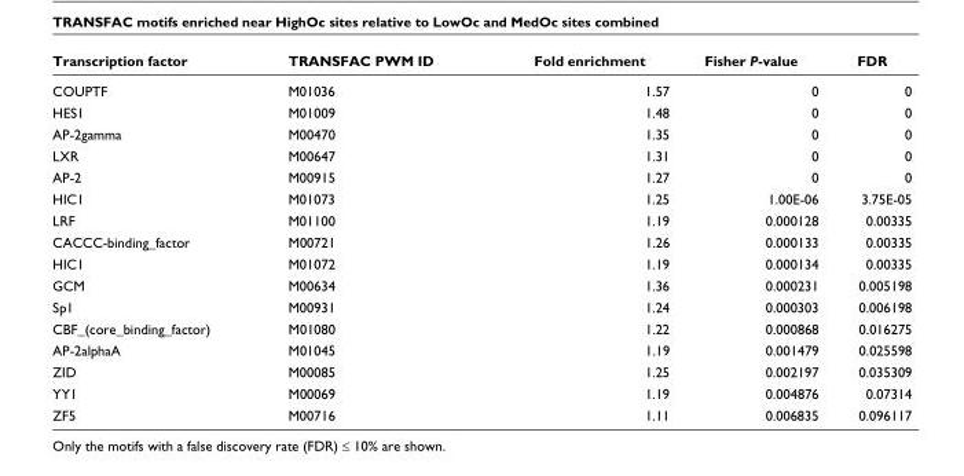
<table><thead><tr><td>Transcription factor</td><td>TRANSFAC PWM ID</td><td>Fold enrichment</td><td>Fisher P-value</td><td>FDR</td></tr></thead><tbody><tr><td>COUPTF</td><td>M01036</td><td>1.57</td><td>0</td><td>0</td></tr><tr><td>HES1</td><td>M01009</td><td>1.48</td><td>0</td><td>0</td></tr><tr><td>AP-2gamma</td><td>M00470</td><td>1.35</td><td>0</td><td>0</td></tr><tr><td>LXR</td><td>M00647</td><td>1.31</td><td>0</td><td>0</td></tr><tr><td>AP-2</td><td>M00915</td><td>1.27</td><td>0</td><td>0</td></tr><tr><td>HIC1</td><td>M01073</td><td>1.25</td><td>1.00E-06</td><td>3.75E-05</td></tr><tr><td>LRF</td><td>M01100</td><td>1.19</td><td>0.000128</td><td>0.00335</td></tr><tr><td>CACCC-binding_factor</td><td>M00721</td><td>1.26</td><td>0.000133</td><td>0.00335</td></tr><tr><td>HIC1</td><td>M01072</td><td>1.19</td><td>0.000134</td><td>0.00335</td></tr><tr><td>GCM</td><td>M00634</td><td>1.36</td><td>0.000231</td><td>0.005198</td></tr><tr><td>Sp1</td><td>M00931</td><td>1.24</td><td>0.000303</td><td>0.006198</td></tr><tr><td>CBF_(core_binding_factor)</td><td>M01080</td><td>1.22</td><td>0.000868</td><td>0.016275</td></tr><tr><td>AP-2alphaA</td><td>M01045</td><td>1.19</td><td>0.001479</td><td>0.025598</td></tr><tr><td>ZID</td><td>M00085</td><td>1.25</td><td>0.002197</td><td>0.035309</td></tr><tr><td>YY1</td><td>M00069</td><td>1.19</td><td>0.004876</td><td>0.07314</td></tr><tr><td>ZF5</td><td>M00716</td><td>1.11</td><td>0.006835</td><td>0.096117</td></tr></tbody></table>